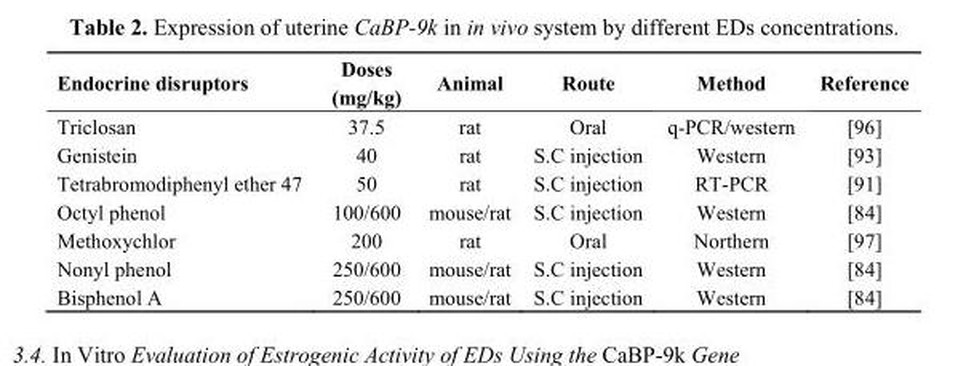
<table><thead><tr><td>Endocrine disruptors</td><td>Doses (mg/kg)</td><td>Animal</td><td>Route</td><td>Method</td><td>Reference</td></tr></thead><tbody><tr><td>Triclosan</td><td>37.5</td><td>rat</td><td>Oral</td><td>q-PCR/western</td><td>[96]</td></tr><tr><td>Genistein</td><td>40</td><td>rat</td><td>S.C injection</td><td>Western</td><td>[93]</td></tr><tr><td>Tetrabromodiphenyl ether 47</td><td>50</td><td>rat</td><td>S.C injection</td><td>RT-PCR</td><td>[91]</td></tr><tr><td>Octyl phenol</td><td>100/600</td><td>mouse/rat</td><td>S.C injection</td><td>Western</td><td>[84]</td></tr><tr><td>Methoxychlor</td><td>200</td><td>rat</td><td>Oral</td><td>Northern</td><td>[97]</td></tr><tr><td>Nonyl phenol</td><td>250/600</td><td>mouse/rat</td><td>S.C injection</td><td>Western</td><td>[84]</td></tr><tr><td>Bisphenol A</td><td>250/600</td><td>mouse/rat</td><td>S.C injection</td><td>Western</td><td>[84]</td></tr></tbody></table>